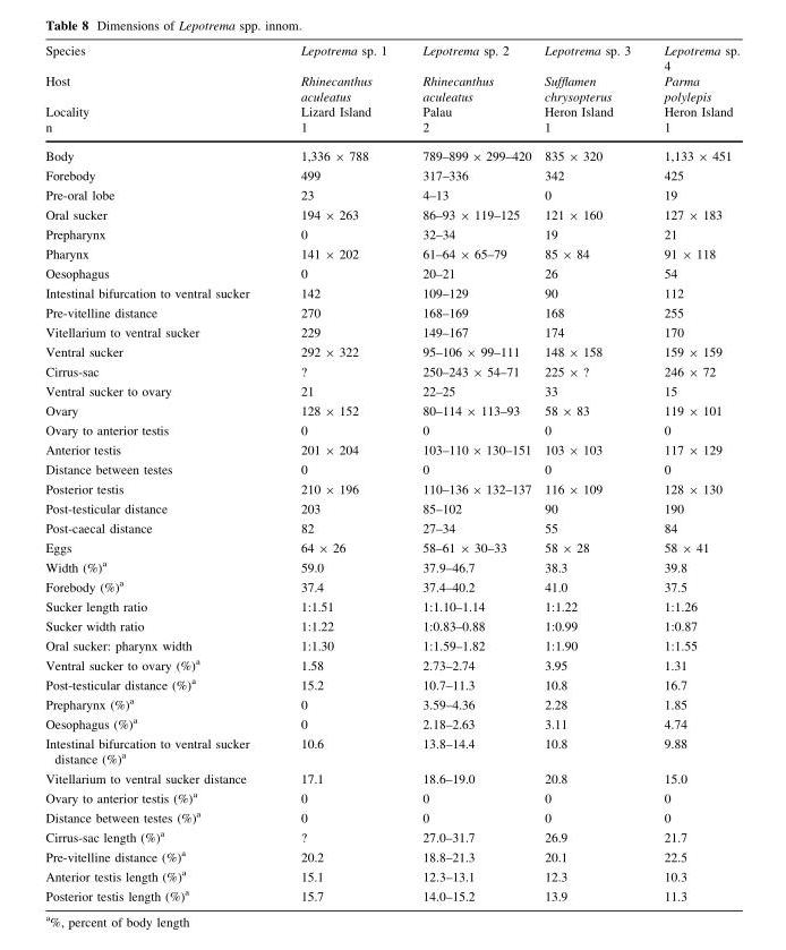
<table><thead><tr><td rowspan="4">Species Host Locality n</td><td rowspan="4">Lepotrema sp. 1 Rhinecanthus aculeatus Lizard Island 1</td><td rowspan="4">Lepotrema sp. 2 Rhinecanthus aculeatus Palau 2</td><td rowspan="4">Lepotrema sp. 3 Sufflamen chrysopterus Heron Island 1</td><td rowspan="4">Lepotrema sp. 4 Parma polylepis Heron Island 1</td></tr><tr></tr><tr></tr><tr></tr></thead><tbody><tr><td>Body</td><td>1,336 × 788</td><td>789–899 × 299–420</td><td>835 × 320</td><td>1,133 × 451</td></tr><tr><td>Forebody</td><td>499</td><td>317–336</td><td>342</td><td>425</td></tr><tr><td>Pre-oral lobe</td><td>23</td><td>4–13</td><td>0</td><td>19</td></tr><tr><td>Oral sucker</td><td>194 × 263</td><td>86–93 × 119–125</td><td>121 × 160</td><td>127 × 183</td></tr><tr><td>Prepharynx</td><td>0</td><td>32–34</td><td>19</td><td>21</td></tr><tr><td>Pharynx</td><td>141 × 202</td><td>61–64 × 65–79</td><td>85 × 84</td><td>91 × 118</td></tr><tr><td>Oesophagus</td><td>0</td><td>20–21</td><td>26</td><td>54</td></tr><tr><td>Intestinal bifurcation to ventral sucker</td><td>142</td><td>109–129</td><td>90</td><td>112</td></tr><tr><td>Pre-vitelline distance</td><td>270</td><td>168–169</td><td>168</td><td>255</td></tr><tr><td>Vitellarium to ventral sucker</td><td>229</td><td>149–167</td><td>174</td><td>170</td></tr><tr><td>Ventral sucker</td><td>292 × 322</td><td>95–106 × 99–111</td><td>148 × 158</td><td>159 × 159</td></tr><tr><td>Cirrus-sac</td><td>?</td><td>250–243 × 54–71</td><td>225 × ?</td><td>246 × 72</td></tr><tr><td>Ventral sucker to ovary</td><td>21</td><td>22–25</td><td>33</td><td>15</td></tr><tr><td>Ovary</td><td>128 × 152</td><td>80–114 × 113–93</td><td>58 × 83</td><td>119 × 101</td></tr><tr><td>Ovary to anterior testis</td><td>0</td><td>0</td><td>0</td><td>0</td></tr><tr><td>Anterior testis</td><td>201 × 204</td><td>103–110 × 130–151</td><td>103 × 103</td><td>117 × 129</td></tr><tr><td>Distance between testes</td><td>0</td><td>0</td><td>0</td><td>0</td></tr><tr><td>Posterior testis</td><td>210 × 196</td><td>110–136 × 132–137</td><td>116 × 109</td><td>128 × 130</td></tr><tr><td>Post-testicular distance</td><td>203</td><td>85–102</td><td>90</td><td>190</td></tr><tr><td>Post-caecal distance</td><td>82</td><td>27–34</td><td>55</td><td>84</td></tr><tr><td>Eggs</td><td>64 × 26</td><td>58–61 × 30–33</td><td>58 × 28</td><td>58 × 41</td></tr><tr><td>Width (%)<sup>a</sup></td><td>59.0</td><td>37.9–46.7</td><td>38.3</td><td>39.8</td></tr><tr><td>Forebody (%)<sup>a</sup></td><td>37.4</td><td>37.4–40.2</td><td>41.0</td><td>37.5</td></tr><tr><td>Sucker length ratio</td><td>1:1.51</td><td>1:1.10–1.14</td><td>1:1.22</td><td>1:1.26</td></tr><tr><td>Sucker width ratio</td><td>1:1.22</td><td>1:0.83–0.88</td><td>1:0.99</td><td>1:0.87</td></tr><tr><td>Oral sucker: pharynx width</td><td>1:1.30</td><td>1:1.59–1.82</td><td>1:1.90</td><td>1:1.55</td></tr><tr><td>Ventral sucker to ovary (%)<sup>a</sup></td><td>1.58</td><td>2.73–2.74</td><td>3.95</td><td>1.31</td></tr><tr><td>Post-testicular distance (%)<sup>a</sup></td><td>15.2</td><td>10.7–11.3</td><td>10.8</td><td>16.7</td></tr><tr><td>Prepharynx (%)<sup>a</sup></td><td>0</td><td>3.59–4.36</td><td>2.28</td><td>1.85</td></tr><tr><td>Oesophagus (%)<sup>a</sup></td><td>0</td><td>2.18–2.63</td><td>3.11</td><td>4.74</td></tr><tr><td>Intestinal bifurcation to ventral sucker distance (%)<sup>a</sup></td><td>10.6</td><td>13.8–14.4</td><td>10.8</td><td>9.88</td></tr><tr><td>Vitellarium to ventral sucker distance</td><td>17.1</td><td>18.6–19.0</td><td>20.8</td><td>15.0</td></tr><tr><td>Ovary to anterior testis (%)<sup>a</sup></td><td>0</td><td>0</td><td>0</td><td>0</td></tr><tr><td>Distance between testes (%)<sup>a</sup></td><td>0</td><td>0</td><td>0</td><td>0</td></tr><tr><td>Cirrus-sac length (%)<sup>a</sup></td><td>?</td><td>27.0–31.7</td><td>26.9</td><td>21.7</td></tr><tr><td>Pre-vitelline distance (%)<sup>a</sup></td><td>20.2</td><td>18.8–21.3</td><td>20.1</td><td>22.5</td></tr><tr><td>Anterior testis length (%)<sup>a</sup></td><td>15.1</td><td>12.3–13.1</td><td>12.3</td><td>10.3</td></tr><tr><td>Posterior testis length (%)<sup>a</sup></td><td>15.7</td><td>14.0–15.2</td><td>13.9</td><td>11.3</td></tr></tbody></table>